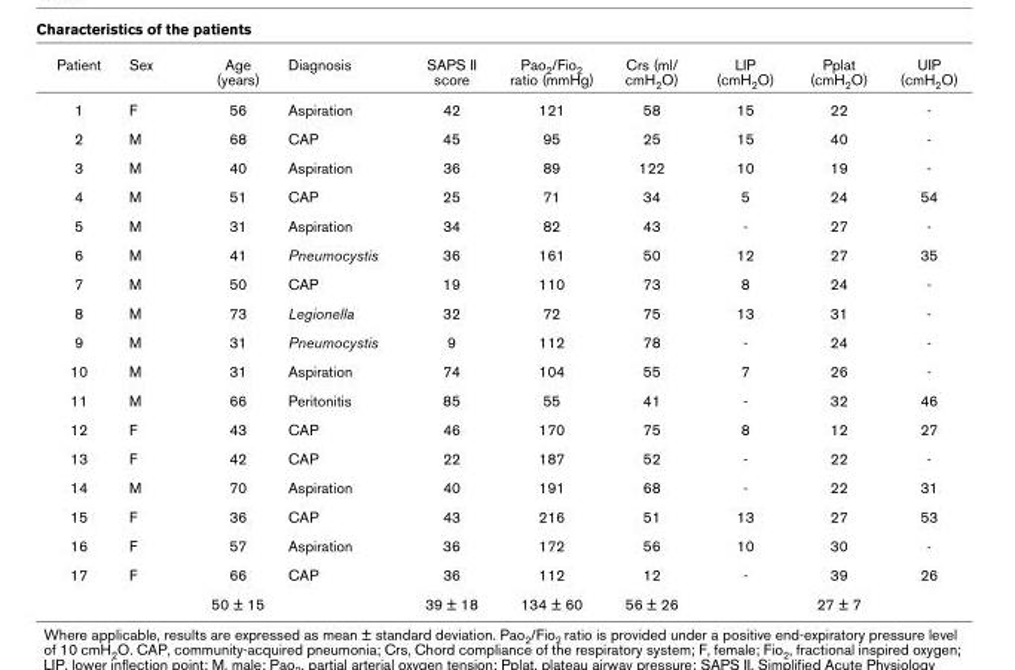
<table><thead><tr><td>Patient</td><td>Sex</td><td>Age (years)</td><td>Diagnosis</td><td>SAPS II score</td><td>Pao2/Fio2 ratio (mmHg)</td><td>Crs (ml/ cmH2O)</td><td>LIP (cmH2O)</td><td>Pplat (cmH2O)</td><td>UIP (cmH2O)</td></tr></thead><tbody><tr><td>1</td><td>F</td><td>56</td><td>Aspiration</td><td>42</td><td>121</td><td>58</td><td>15</td><td>22</td><td>-</td></tr><tr><td>2</td><td>M</td><td>68</td><td>CAP</td><td>45</td><td>95</td><td>25</td><td>15</td><td>40</td><td>-</td></tr><tr><td>3</td><td>M</td><td>40</td><td>Aspiration</td><td>36</td><td>89</td><td>122</td><td>10</td><td>19</td><td>-</td></tr><tr><td>4</td><td>M</td><td>51</td><td>CAP</td><td>25</td><td>71</td><td>34</td><td>5</td><td>24</td><td>54</td></tr><tr><td>5</td><td>M</td><td>31</td><td>Aspiration</td><td>34</td><td>82</td><td>43</td><td>-</td><td>27</td><td>-</td></tr><tr><td>6</td><td>M</td><td>41</td><td>Pneumocystis</td><td>36</td><td>161</td><td>50</td><td>12</td><td>27</td><td>35</td></tr><tr><td>7</td><td>M</td><td>50</td><td>CAP</td><td>19</td><td>110</td><td>73</td><td>8</td><td>24</td><td>-</td></tr><tr><td>8</td><td>M</td><td>73</td><td>Legionella</td><td>32</td><td>72</td><td>75</td><td>13</td><td>31</td><td>-</td></tr><tr><td>9</td><td>M</td><td>31</td><td>Pneumocystis</td><td>9</td><td>112</td><td>78</td><td>-</td><td>24</td><td>-</td></tr><tr><td>10</td><td>M</td><td>31</td><td>Aspiration</td><td>74</td><td>104</td><td>55</td><td>7</td><td>26</td><td>-</td></tr><tr><td>11</td><td>M</td><td>66</td><td>Peritonitis</td><td>85</td><td>55</td><td>41</td><td>-</td><td>32</td><td>46</td></tr><tr><td>12</td><td>F</td><td>43</td><td>CAP</td><td>46</td><td>170</td><td>75</td><td>8</td><td>12</td><td>27</td></tr><tr><td>13</td><td>F</td><td>42</td><td>CAP</td><td>22</td><td>187</td><td>52</td><td>-</td><td>22</td><td>-</td></tr><tr><td>14</td><td>M</td><td>70</td><td>Aspiration</td><td>40</td><td>191</td><td>68</td><td>-</td><td>22</td><td>31</td></tr><tr><td>15</td><td>F</td><td>36</td><td>CAP</td><td>43</td><td>216</td><td>51</td><td>13</td><td>27</td><td>53</td></tr><tr><td>16</td><td>F</td><td>57</td><td>Aspiration</td><td>36</td><td>172</td><td>56</td><td>10</td><td>30</td><td>-</td></tr><tr><td rowspan="2">17</td><td>F</td><td>66</td><td>CAP</td><td>36</td><td>112</td><td>12</td><td>-</td><td>39</td><td>26</td></tr><tr><td></td><td>50 ± 15</td><td></td><td>39 ± 18</td><td>134 ± 60</td><td>56 ± 26</td><td></td><td>27 ± 7</td><td></td></tr></tbody></table>